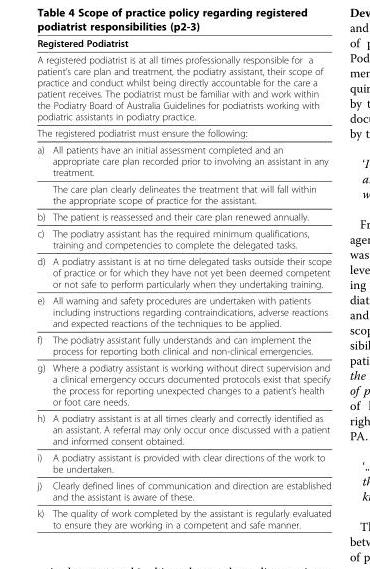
<table><thead><tr><td rowspan="3" colspan="2">Registered Podiatrist A registered podiatrist is at all times professionally responsible for a patient’s care plan and treatment, the podiatry assistant, their scope of practice and conduct whilst being directly accountable for the care a patient receives. The podiatrist must be familiar with and work within the Podiatry Board of Australia Guidelines for podiatrists working with podiatric assistants in podiatry practice. The registered podiatrist must ensure the following:</td></tr><tr></tr><tr></tr><tr><td>a)</td><td>All patients have an initial assessment completed and an appropriate care plan recorded prior to involving an assistant in any treatment.</td></tr></thead><tbody><tr><td></td><td>The care plan clearly delineates the treatment that will fall within the appropriate scope of practice for the assistant.</td></tr><tr><td>b)</td><td>The patient is reassessed and their care plan renewed annually.</td></tr><tr><td>c)</td><td>The podiatry assistant has the required minimum qualifications, training and competencies to complete the delegated tasks.</td></tr><tr><td>d)</td><td>A podiatry assistant is at no time delegated tasks outside their scope of practice or for which they have not yet been deemed competent or not safe to perform particularly when they undertaking training.</td></tr><tr><td>e)</td><td>All warning and safety procedures are undertaken with patients including instructions regarding contraindications, adverse reactions and expected reactions of the techniques to be applied.</td></tr><tr><td>f)</td><td>The podiatry assistant fully understands and can implement the process for reporting both clinical and non-clinical emergencies.</td></tr><tr><td>g)</td><td>Where a podiatry assistant is working without direct supervision and a clinical emergency occurs documented protocols exist that specify the process for reporting unexpected changes to a patient’s health or foot care needs.</td></tr><tr><td>h)</td><td>A podiatry assistant is at all times clearly and correctly identified as an assistant. A referral may only occur once discussed with a patient and informed consent obtained.</td></tr><tr><td>i)</td><td>A podiatry assistant is provided with clear directions of the work to be undertaken.</td></tr><tr><td>j)</td><td>Clearly defined lines of communication and direction are established and the assistant is aware of these.</td></tr><tr><td>k)</td><td>The quality of work completed by the assistant is regularly evaluated to ensure they are working in a competent and safe manner.</td></tr></tbody></table>